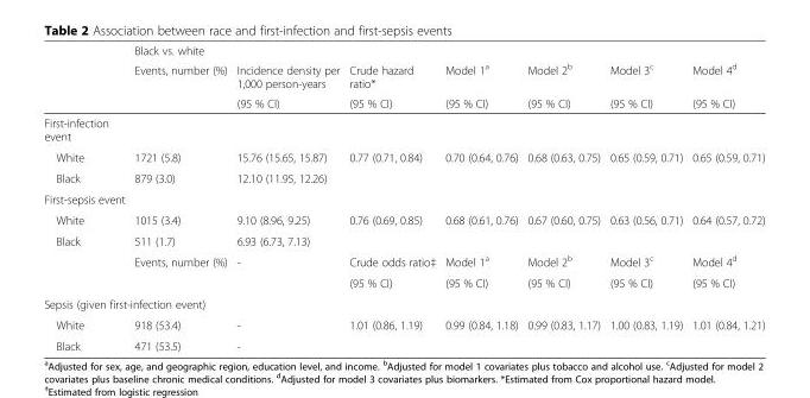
<table><thead><tr><td rowspan="3"></td><td colspan="7">Black vs. white</td></tr><tr><td rowspan="2">Events, number (%)</td><td rowspan="2">Incidence density per 1,000 person-years (95 % CI)</td><td rowspan="2">Crude hazard ratio* (95 % CI)</td><td rowspan="2">Model 1<sup>a</sup> (95 % CI)</td><td rowspan="2">Model 2<sup>b</sup> (95 % CI)</td><td rowspan="2">Model 3<sup>c</sup> (95 % CI)</td><td rowspan="2">Model 4<sup>d</sup> (95 % CI)</td></tr><tr></tr></thead><tbody><tr><td colspan="8">First-infection event</td></tr><tr><td>White</td><td>1721 (5.8)</td><td>15.76 (15.65, 15.87)</td><td rowspan="2">0.77 (0.71, 0.84)</td><td rowspan="2">0.70 (0.64, 0.76)</td><td rowspan="2">0.68 (0.63, 0.75)</td><td rowspan="2">0.65 (0.59, 0.71)</td><td rowspan="2">0.65 (0.59, 0.71)</td></tr><tr><td>Black</td><td>879 (3.0)</td><td>12.10 (11.95, 12.26)</td></tr><tr><td colspan="8">First-sepsis event</td></tr><tr><td>White</td><td>1015 (3.4)</td><td>9.10 (8.96, 9.25)</td><td rowspan="2">0.76 (0.69, 0.85)</td><td rowspan="2">0.68 (0.61, 0.76)</td><td rowspan="2">0.67 (0.60, 0.75)</td><td rowspan="2">0.63 (0.56, 0.71)</td><td rowspan="2">0.64 (0.57, 0.72)</td></tr><tr><td rowspan="3">Black</td><td>511 (1.7)</td><td>6.93 (6.73, 7.13)</td></tr><tr><td rowspan="2">Events, number (%)</td><td rowspan="2">-</td><td>Crude odds ratio‡</td><td>Model 1<sup>a</sup></td><td>Model 2<sup>b</sup></td><td>Model 3<sup>c</sup></td><td>Model 4<sup>d</sup></td></tr><tr><td>(95 % CI)</td><td>(95 % CI)</td><td>(95 % CI)</td><td>(95 % CI)</td><td>(95 % CI)</td></tr><tr><td colspan="8">Sepsis (given first-infection event)</td></tr><tr><td>White</td><td>918 (53.4)</td><td>-</td><td rowspan="2">1.01 (0.86, 1.19)</td><td rowspan="2">0.99 (0.84, 1.18)</td><td rowspan="2">0.99 (0.83, 1.17)</td><td rowspan="2">1.00 (0.83, 1.19)</td><td rowspan="2">1.01 (0.84, 1.21)</td></tr><tr><td>Black</td><td>471 (53.5)</td><td>-</td></tr></tbody></table>